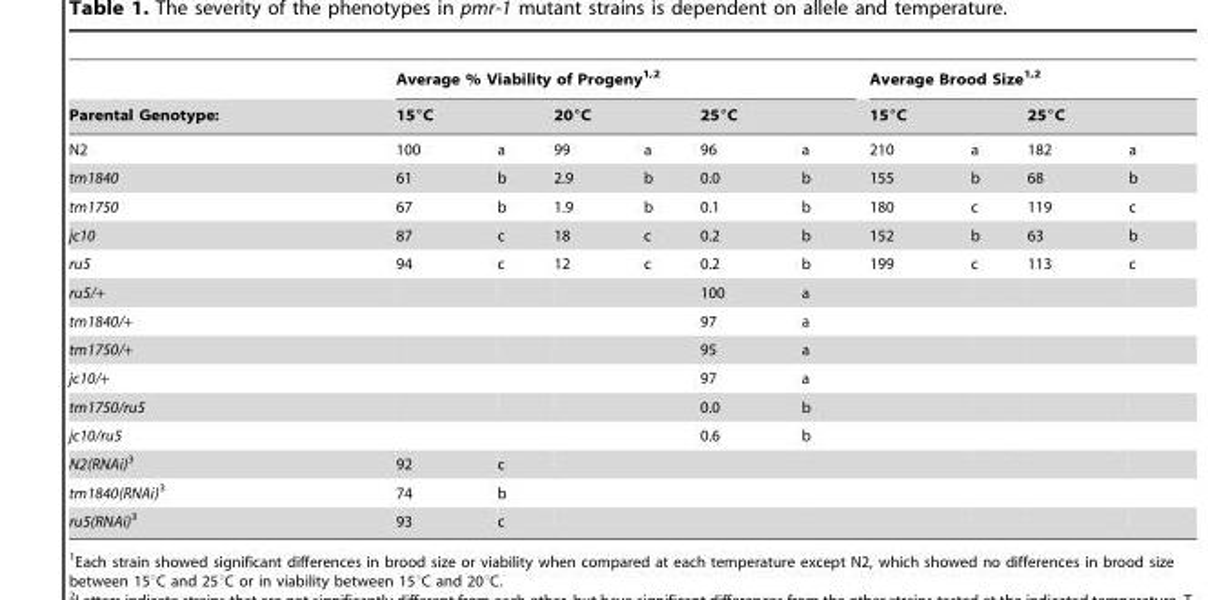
<table><thead><tr><td rowspan="3">Parental Genotype: N2</td><td colspan="6">Average % Viability of Progeny<sup>1,</sup>2</td><td colspan="4">Average Brood Size<sup>1,</sup>2</td></tr><tr><td colspan="2">15°C</td><td colspan="2">20°C</td><td colspan="2">25°C</td><td colspan="2">15°C</td><td colspan="2">25°C</td></tr><tr><td>100</td><td>a</td><td>99</td><td>a</td><td>96</td><td>a</td><td>210</td><td>a</td><td>182</td><td>a</td></tr></thead><tbody><tr><td>tm1840</td><td>61</td><td>b</td><td>2.9</td><td>b</td><td>0.0</td><td>b</td><td>155</td><td>b</td><td>68</td><td>b</td></tr><tr><td>tm1750</td><td>67</td><td>b</td><td>1.9</td><td>b</td><td>0.1</td><td>b</td><td>180</td><td>c</td><td>119</td><td>c</td></tr><tr><td>jc10</td><td>87</td><td>c</td><td>18</td><td>c</td><td>0.2</td><td>b</td><td>152</td><td>b</td><td>63</td><td>b</td></tr><tr><td>ru5</td><td>94</td><td>c</td><td>12</td><td>c</td><td>0.2</td><td>b</td><td>199</td><td>c</td><td>113</td><td>c</td></tr><tr><td>ru5/+</td><td></td><td></td><td></td><td></td><td>100</td><td>a</td><td></td><td></td><td></td><td></td></tr><tr><td>tm1840/+</td><td></td><td></td><td></td><td></td><td>97</td><td>a</td><td></td><td></td><td></td><td></td></tr><tr><td>tm1750/+</td><td></td><td></td><td></td><td></td><td>95</td><td>a</td><td></td><td></td><td></td><td></td></tr><tr><td>jc10/+</td><td></td><td></td><td></td><td></td><td>97</td><td>a</td><td></td><td></td><td></td><td></td></tr><tr><td>tm1750/ru5</td><td></td><td></td><td></td><td></td><td>0.0</td><td>b</td><td></td><td></td><td></td><td></td></tr><tr><td>jc10/ru5</td><td></td><td></td><td></td><td></td><td>0.6</td><td>b</td><td></td><td></td><td></td><td></td></tr><tr><td>N2(RNAi)3</td><td>92</td><td>c</td><td></td><td></td><td></td><td></td><td></td><td></td><td></td><td></td></tr><tr><td>tm1840(RNAi)3</td><td>74</td><td>b</td><td></td><td></td><td></td><td></td><td></td><td></td><td></td><td></td></tr><tr><td>ru5(RNAi)3</td><td>93</td><td>c</td><td></td><td></td><td></td><td></td><td></td><td></td><td></td><td></td></tr></tbody></table>